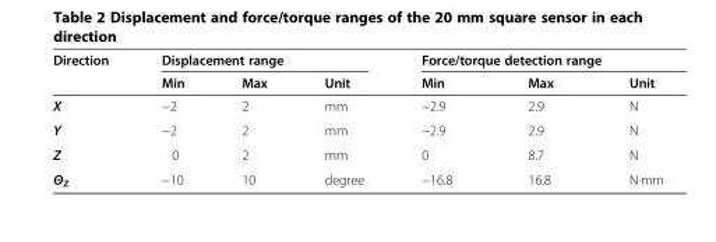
<table><thead><tr><td rowspan="2">Direction</td><td colspan="3">Displacement range</td><td colspan="3">Force/torque detection range</td></tr><tr><td>Min</td><td>Max</td><td>Unit</td><td>Min</td><td>Max</td><td>Unit</td></tr></thead><tbody><tr><td>X</td><td>−2</td><td>2</td><td>mm</td><td>−2.9</td><td>2.9</td><td>N</td></tr><tr><td>Y</td><td>−2</td><td>2</td><td>mm</td><td>−2.9</td><td>2.9</td><td>N</td></tr><tr><td>Z</td><td>0</td><td>2</td><td>mm</td><td>0</td><td>8.7</td><td>N</td></tr><tr><td>Θ<sub>Z</sub></td><td>−10</td><td>10</td><td>degree</td><td>−16.8</td><td>16.8</td><td>N·mm</td></tr></tbody></table>